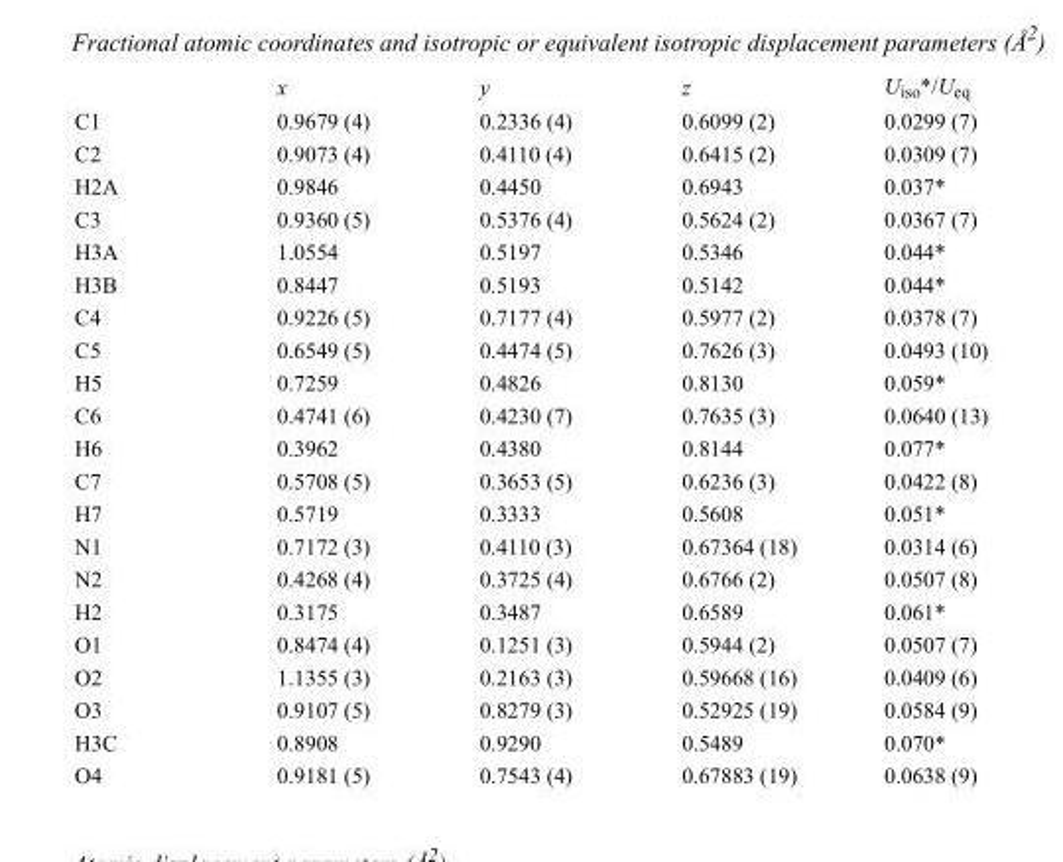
<table><thead><tr><td></td><td>x</td><td>y</td><td>z</td><td>U<sub>iso</sub>*/U<sub>eq</sub></td></tr></thead><tbody><tr><td>C1</td><td>0.9679 (4)</td><td>0.2336 (4)</td><td>0.6099 (2)</td><td>0.0299 (7)</td></tr><tr><td>C2</td><td>0.9073 (4)</td><td>0.4110 (4)</td><td>0.6415 (2)</td><td>0.0309 (7)</td></tr><tr><td>H2A</td><td>0.9846</td><td>0.4450</td><td>0.6943</td><td>0.037*</td></tr><tr><td>C3</td><td>0.9360 (5)</td><td>0.5376 (4)</td><td>0.5624 (2)</td><td>0.0367 (7)</td></tr><tr><td>H3A</td><td>1.0554</td><td>0.5197</td><td>0.5346</td><td>0.044*</td></tr><tr><td>H3B</td><td>0.8447</td><td>0.5193</td><td>0.5142</td><td>0.044*</td></tr><tr><td>C4</td><td>0.9226 (5)</td><td>0.7177 (4)</td><td>0.5977 (2)</td><td>0.0378 (7)</td></tr><tr><td>C5</td><td>0.6549 (5)</td><td>0.4474 (5)</td><td>0.7626 (3)</td><td>0.0493 (10)</td></tr><tr><td>H5</td><td>0.7259</td><td>0.4826</td><td>0.8130</td><td>0.059*</td></tr><tr><td>C6</td><td>0.4741 (6)</td><td>0.4230 (7)</td><td>0.7635 (3)</td><td>0.0640 (13)</td></tr><tr><td>H6</td><td>0.3962</td><td>0.4380</td><td>0.8144</td><td>0.077*</td></tr><tr><td>C7</td><td>0.5708 (5)</td><td>0.3653 (5)</td><td>0.6236 (3)</td><td>0.0422 (8)</td></tr><tr><td>H7</td><td>0.5719</td><td>0.3333</td><td>0.5608</td><td>0.051*</td></tr><tr><td>N1</td><td>0.7172 (3)</td><td>0.4110 (3)</td><td>0.67364 (18)</td><td>0.0314 (6)</td></tr><tr><td>N2</td><td>0.4268 (4)</td><td>0.3725 (4)</td><td>0.6766 (2)</td><td>0.0507 (8)</td></tr><tr><td>H2</td><td>0.3175</td><td>0.3487</td><td>0.6589</td><td>0.061*</td></tr><tr><td>O1</td><td>0.8474 (4)</td><td>0.1251 (3)</td><td>0.5944 (2)</td><td>0.0507 (7)</td></tr><tr><td>O2</td><td>1.1355 (3)</td><td>0.2163 (3)</td><td>0.59668 (16)</td><td>0.0409 (6)</td></tr><tr><td>O3</td><td>0.9107 (5)</td><td>0.8279 (3)</td><td>0.52925 (19)</td><td>0.0584 (9)</td></tr><tr><td>H3C</td><td>0.8908</td><td>0.9290</td><td>0.5489</td><td>0.070*</td></tr><tr><td>O4</td><td>0.9181 (5)</td><td>0.7543 (4)</td><td>0.67883 (19)</td><td>0.0638 (9)</td></tr></tbody></table>